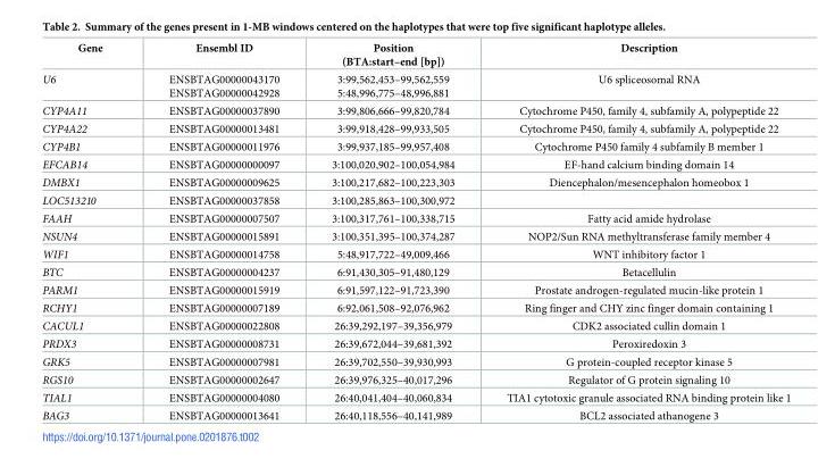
<table><thead><tr><td>Gene</td><td>Ensembl ID</td><td>Position (BTA:start–end [bp])</td><td>Description</td></tr></thead><tbody><tr><td>U6</td><td>ENSBTAG00000043170 ENSBTAG00000042928</td><td>3:99,562,453–99,562,559 5:48,996,775–48,996,881</td><td>U6 spliceosomal RNA</td></tr><tr><td>CYP4A11</td><td>ENSBTAG00000037890</td><td>3:99,806,666–99,820,784</td><td>Cytochrome P450, family 4, subfamily A, polypeptide 22</td></tr><tr><td>CYP4A22</td><td>ENSBTAG00000013481</td><td>3:99,918,428–99,933,505</td><td>Cytochrome P450, family 4, subfamily A, polypeptide 22</td></tr><tr><td>CYP4B1</td><td>ENSBTAG00000011976</td><td>3:99,937,185–99,957,408</td><td>Cytochrome P450 family 4 subfamily B member 1</td></tr><tr><td>EFCAB14</td><td>ENSBTAG00000000097</td><td>3:100,020,902–100,054,984</td><td>EF-hand calcium binding domain 14</td></tr><tr><td>DMBX1</td><td>ENSBTAG00000009625</td><td>3:100,217,682–100,223,303</td><td>Diencephalon/mesencephalon homeobox 1</td></tr><tr><td>LOC513210</td><td>ENSBTAG00000037858</td><td>3:100,285,863–100,300,972</td><td></td></tr><tr><td>FAAH</td><td>ENSBTAG00000007507</td><td>3:100,317,761–100,338,715</td><td>Fatty acid amide hydrolase</td></tr><tr><td>NSUN4</td><td>ENSBTAG00000015891</td><td>3:100,351,395–100,374,287</td><td>NOP2/Sun RNA methyltransferase family member 4</td></tr><tr><td>WIF1</td><td>ENSBTAG00000014758</td><td>5:48,917,722–49,009,466</td><td>WNT inhibitory factor 1</td></tr><tr><td>BTC</td><td>ENSBTAG00000004237</td><td>6:91,430,305–91,480,129</td><td>Betacellulin</td></tr><tr><td>PARM1</td><td>ENSBTAG00000015919</td><td>6:91,597,122–91,723,390</td><td>Prostate androgen-regulated mucin-like protein 1</td></tr><tr><td>RCHY1</td><td>ENSBTAG00000007189</td><td>6:92,061,508–92,076,962</td><td>Ring finger and CHY zinc finger domain containing 1</td></tr><tr><td>CACUL1</td><td>ENSBTAG00000022808</td><td>26:39,292,197–39,356,979</td><td>CDK2 associated cullin domain 1</td></tr><tr><td>PRDX3</td><td>ENSBTAG00000008731</td><td>26:39,672,044–39,681,392</td><td>Peroxiredoxin 3</td></tr><tr><td>GRK5</td><td>ENSBTAG00000007981</td><td>26:39,702,550–39,930,993</td><td>G protein-coupled receptor kinase 5</td></tr><tr><td>RGS10</td><td>ENSBTAG00000002647</td><td>26:39,976,325–40,017,296</td><td>Regulator of G protein signaling 10</td></tr><tr><td>TIAL1</td><td>ENSBTAG00000004080</td><td>26:40,041,404–40,060,834</td><td>TIA1 cytotoxic granule associated RNA binding protein like 1</td></tr><tr><td>BAG3</td><td>ENSBTAG00000013641</td><td>26:40,118,556–40,141,989</td><td>BCL2 associated athanogene 3</td></tr></tbody></table>